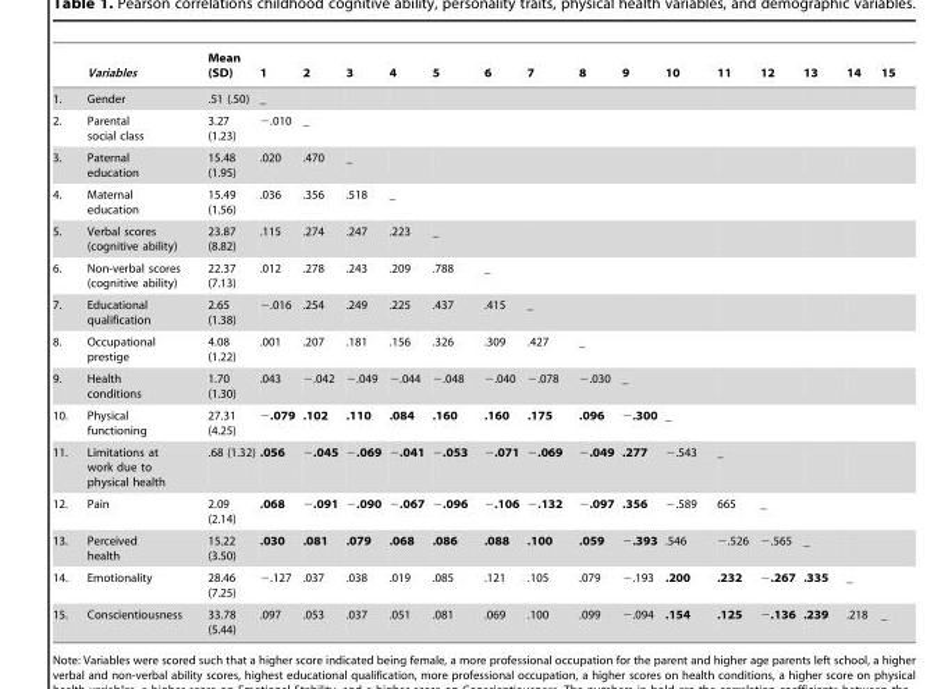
<table><thead><tr><td></td><td>Variables</td><td>Mean (SD)</td><td>1</td><td>2</td><td>3</td><td>4</td><td>5</td><td>6</td><td>7</td><td>8</td><td>9</td><td>10</td><td>11</td><td>12</td><td>13</td><td>14</td><td>15</td></tr></thead><tbody><tr><td>1.</td><td>Gender</td><td>.51 (.50)</td><td>_</td><td></td><td></td><td></td><td></td><td></td><td></td><td></td><td></td><td></td><td></td><td></td><td></td><td></td><td></td></tr><tr><td>2.</td><td>Parental social class</td><td>3.27 (1.23)</td><td>−.010</td><td>_</td><td></td><td></td><td></td><td></td><td></td><td></td><td></td><td></td><td></td><td></td><td></td><td></td><td></td></tr><tr><td>3.</td><td>Paternal education</td><td>15.48 (1.95)</td><td>.020</td><td>.470</td><td>_</td><td></td><td></td><td></td><td></td><td></td><td></td><td></td><td></td><td></td><td></td><td></td><td></td></tr><tr><td>4.</td><td>Maternal education</td><td>15.49 (1.56)</td><td>.036</td><td>.356</td><td>.518</td><td>_</td><td></td><td></td><td></td><td></td><td></td><td></td><td></td><td></td><td></td><td></td><td></td></tr><tr><td>5.</td><td>Verbal scores (cognitive ability)</td><td>23.87 (8.82)</td><td>.115</td><td>.274</td><td>.247</td><td>.223</td><td>_</td><td></td><td></td><td></td><td></td><td></td><td></td><td></td><td></td><td></td><td></td></tr><tr><td>6.</td><td>Non-verbal scores (cognitive ability)</td><td>22.37 (7.13)</td><td>.012</td><td>.278</td><td>.243</td><td>.209</td><td>.788</td><td>_</td><td></td><td></td><td></td><td></td><td></td><td></td><td></td><td></td><td></td></tr><tr><td>7.</td><td>Educational qualification</td><td>2.65 (1.38)</td><td>−.016</td><td>.254</td><td>.249</td><td>.225</td><td>.437</td><td>.415</td><td>_</td><td></td><td></td><td></td><td></td><td></td><td></td><td></td><td></td></tr><tr><td>8.</td><td>Occupational prestige</td><td>4.08 (1.22)</td><td>.001</td><td>.207</td><td>.181</td><td>.156</td><td>.326</td><td>.309</td><td>.427</td><td>_</td><td></td><td></td><td></td><td></td><td></td><td></td><td></td></tr><tr><td>9.</td><td>Health conditions</td><td>1.70 (1.30)</td><td>.043</td><td>−.042</td><td>−.049</td><td>−.044</td><td>−.048</td><td>−.040</td><td>−.078</td><td>−.030</td><td>_</td><td></td><td></td><td></td><td></td><td></td><td></td></tr><tr><td>10.</td><td>Physical functioning</td><td>27.31 (4.25)</td><td>−.079</td><td>.102</td><td>.110</td><td>.084</td><td>.160</td><td>.160</td><td>.175</td><td>.096</td><td>−.300</td><td>_</td><td></td><td></td><td></td><td></td><td></td></tr><tr><td>11.</td><td>Limitations at work due to physical health</td><td>.68 (1.32)</td><td>.056</td><td>−.045</td><td>−.069</td><td>−.041</td><td>−.053</td><td>−.071</td><td>−.069</td><td>−.049</td><td>.277</td><td>−.543</td><td>_</td><td></td><td></td><td></td><td></td></tr><tr><td>12.</td><td>Pain</td><td>2.09 (2.14)</td><td>.068</td><td>−.091</td><td>−.090</td><td>−.067</td><td>−.096</td><td>−.106</td><td>−.132</td><td>−.097</td><td>.356</td><td>−.589</td><td>665</td><td>_</td><td></td><td></td><td></td></tr><tr><td>13.</td><td>Perceived health</td><td>15.22 (3.50)</td><td>.030</td><td>.081</td><td>.079</td><td>.068</td><td>.086</td><td>.088</td><td>.100</td><td>.059</td><td>−.393</td><td>.546</td><td>−.526</td><td>−.565</td><td>_</td><td></td><td></td></tr><tr><td>14.</td><td>Emotionality</td><td>28.46 (7.25)</td><td>−.127</td><td>.037</td><td>.038</td><td>.019</td><td>.085</td><td>.121</td><td>.105</td><td>.079</td><td>−.193</td><td>.200</td><td>.232</td><td>−.267</td><td>.335</td><td>_</td><td></td></tr><tr><td>15.</td><td>Conscientiousness</td><td>33.78 (5.44)</td><td>.097</td><td>.053</td><td>.037</td><td>.051</td><td>.081</td><td>.069</td><td>.100</td><td>.099</td><td>−.094</td><td>.154</td><td>.125</td><td>−.136</td><td>.239</td><td>.218</td><td>_</td></tr></tbody></table>